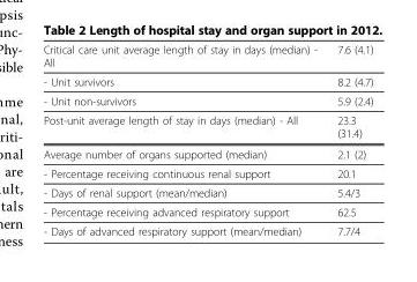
<table><tbody><tr><td>Critical care unit average length of stay in days (median) - All</td><td>7.6 (4.1)</td></tr><tr><td>- Unit survivors</td><td>8.2 (4.7)</td></tr><tr><td>- Unit non-survivors</td><td>5.9 (2.4)</td></tr><tr><td>Post-unit average length of stay in days (median) - All</td><td>23.3 (31.4)</td></tr><tr><td>Average number of organs supported (median)</td><td>2.1 (2)</td></tr><tr><td>- Percentage receiving continuous renal support</td><td>20.1</td></tr><tr><td>- Days of renal support (mean/median)</td><td>5.4/3</td></tr><tr><td>- Percentage receiving advanced respiratory support</td><td>62.5</td></tr><tr><td>- Days of advanced respiratory support (mean/median)</td><td>7.7/4</td></tr></tbody></table>